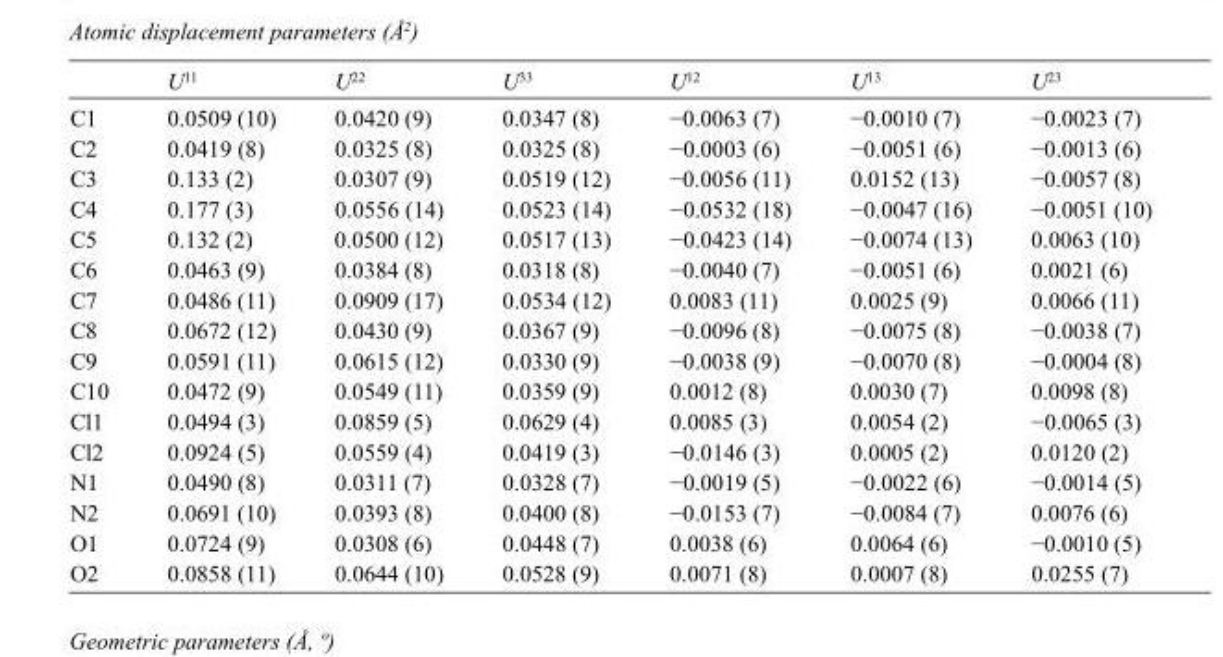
<table><thead><tr><td></td><td>U<sup>11</sup></td><td>U<sup>22</sup></td><td>U<sup>33</sup></td><td>U<sup>12</sup></td><td>U<sup>13</sup></td><td>U<sup>23</sup></td></tr></thead><tbody><tr><td>C1</td><td>0.0509 (10)</td><td>0.0420 (9)</td><td>0.0347 (8)</td><td>−0.0063 (7)</td><td>−0.0010 (7)</td><td>−0.0023 (7)</td></tr><tr><td>C2</td><td>0.0419 (8)</td><td>0.0325 (8)</td><td>0.0325 (8)</td><td>−0.0003 (6)</td><td>−0.0051 (6)</td><td>−0.0013 (6)</td></tr><tr><td>C3</td><td>0.133 (2)</td><td>0.0307 (9)</td><td>0.0519 (12)</td><td>−0.0056 (11)</td><td>0.0152 (13)</td><td>−0.0057 (8)</td></tr><tr><td>C4</td><td>0.177 (3)</td><td>0.0556 (14)</td><td>0.0523 (14)</td><td>−0.0532 (18)</td><td>−0.0047 (16)</td><td>−0.0051 (10)</td></tr><tr><td>C5</td><td>0.132 (2)</td><td>0.0500 (12)</td><td>0.0517 (13)</td><td>−0.0423 (14)</td><td>−0.0074 (13)</td><td>0.0063 (10)</td></tr><tr><td>C6</td><td>0.0463 (9)</td><td>0.0384 (8)</td><td>0.0318 (8)</td><td>−0.0040 (7)</td><td>−0.0051 (6)</td><td>0.0021 (6)</td></tr><tr><td>C7</td><td>0.0486 (11)</td><td>0.0909 (17)</td><td>0.0534 (12)</td><td>0.0083 (11)</td><td>0.0025 (9)</td><td>0.0066 (11)</td></tr><tr><td>C8</td><td>0.0672 (12)</td><td>0.0430 (9)</td><td>0.0367 (9)</td><td>−0.0096 (8)</td><td>−0.0075 (8)</td><td>−0.0038 (7)</td></tr><tr><td>C9</td><td>0.0591 (11)</td><td>0.0615 (12)</td><td>0.0330 (9)</td><td>−0.0038 (9)</td><td>−0.0070 (8)</td><td>−0.0004 (8)</td></tr><tr><td>C10</td><td>0.0472 (9)</td><td>0.0549 (11)</td><td>0.0359 (9)</td><td>0.0012 (8)</td><td>0.0030 (7)</td><td>0.0098 (8)</td></tr><tr><td>Cl1</td><td>0.0494 (3)</td><td>0.0859 (5)</td><td>0.0629 (4)</td><td>0.0085 (3)</td><td>0.0054 (2)</td><td>−0.0065 (3)</td></tr><tr><td>Cl2</td><td>0.0924 (5)</td><td>0.0559 (4)</td><td>0.0419 (3)</td><td>−0.0146 (3)</td><td>0.0005 (2)</td><td>0.0120 (2)</td></tr><tr><td>N1</td><td>0.0490 (8)</td><td>0.0311 (7)</td><td>0.0328 (7)</td><td>−0.0019 (5)</td><td>−0.0022 (6)</td><td>−0.0014 (5)</td></tr><tr><td>N2</td><td>0.0691 (10)</td><td>0.0393 (8)</td><td>0.0400 (8)</td><td>−0.0153 (7)</td><td>−0.0084 (7)</td><td>0.0076 (6)</td></tr><tr><td>O1</td><td>0.0724 (9)</td><td>0.0308 (6)</td><td>0.0448 (7)</td><td>0.0038 (6)</td><td>0.0064 (6)</td><td>−0.0010 (5)</td></tr><tr><td>O2</td><td>0.0858 (11)</td><td>0.0644 (10)</td><td>0.0528 (9)</td><td>0.0071 (8)</td><td>0.0007 (8)</td><td>0.0255 (7)</td></tr></tbody></table>